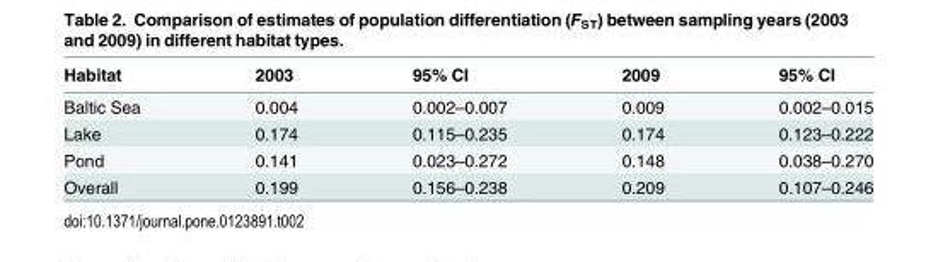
<table><thead><tr><td>Habitat</td><td>2003</td><td>95% CI</td><td>2009</td><td>95% CI</td></tr></thead><tbody><tr><td>Baltic Sea</td><td>0.004</td><td>0.002–0.007</td><td>0.009</td><td>0.002–0.015</td></tr><tr><td>Lake</td><td>0.174</td><td>0.115–0.235</td><td>0.174</td><td>0.123–0.222</td></tr><tr><td>Pond</td><td>0.141</td><td>0.023–0.272</td><td>0.148</td><td>0.038–0.270</td></tr><tr><td>Overall</td><td>0.199</td><td>0.156–0.238</td><td>0.209</td><td>0.107–0.246</td></tr></tbody></table>